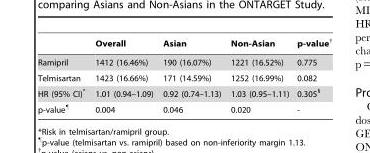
<table><thead><tr><td></td><td>Overall</td><td>Asian</td><td>Non-Asian</td><td>p-value†</td></tr></thead><tbody><tr><td>Ramipril</td><td>1412 (16.46%)</td><td>190 (16.07%)</td><td>1221 (16.52%)</td><td>0.775</td></tr><tr><td>Telmisartan</td><td>1423 (16.66%)</td><td>171 (14.59%)</td><td>1252 (16.99%)</td><td>0.082</td></tr><tr><td>HR (95% CI)*</td><td>1.01 (0.94–1.09)</td><td>0.92 (0.74–1.13)</td><td>1.03 (0.95–1.11)</td><td>0.305§</td></tr><tr><td>p-value¶</td><td>0.004</td><td>0.046</td><td>0.020</td><td>-</td></tr></tbody></table>